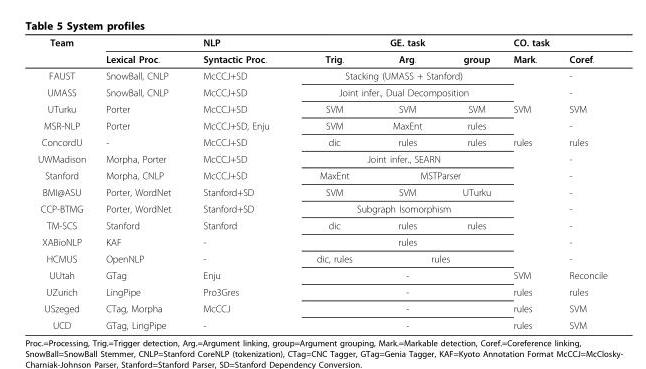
<table><thead><tr><td rowspan="2">Team</td><td rowspan="2">Lexical Proc.</td><td rowspan="2">NLP Syntactic Proc.</td><td rowspan="2">Trig.</td><td rowspan="2">GE. task Arg.</td><td rowspan="2">group</td><td colspan="2">CO. task</td></tr><tr><td>Mark.</td><td>Coref.</td></tr></thead><tbody><tr><td>FAUST</td><td>SnowBall, CNLP</td><td>McCCJ+SD</td><td colspan="3">Stacking (UMASS + Stanford)</td><td></td><td>-</td></tr><tr><td>UMASS</td><td>SnowBall, CNLP</td><td>McCCJ+SD</td><td colspan="3">Joint infer., Dual Decomposition</td><td></td><td>-</td></tr><tr><td>UTurku</td><td>Porter</td><td>McCCJ+SD</td><td>SVM</td><td>SVM</td><td>SVM</td><td>SVM</td><td>SVM</td></tr><tr><td>MSR-NLP</td><td>Porter</td><td>McCCJ+SD, Enju</td><td>SVM</td><td>MaxEnt</td><td>rules</td><td></td><td>-</td></tr><tr><td>ConcordU</td><td>-</td><td>McCCJ+SD</td><td>dic</td><td>rules</td><td>rules</td><td>rules</td><td>rules</td></tr><tr><td>UWMadison</td><td>Morpha, Porter</td><td>McCCJ+SD</td><td colspan="3">Joint infer., SEARN</td><td></td><td>-</td></tr><tr><td>Stanford</td><td>Morpha, CNLP</td><td>McCCJ+SD</td><td>MaxEnt</td><td colspan="2">MSTParser</td><td></td><td>-</td></tr><tr><td>BMI@ASU</td><td>Porter, WordNet</td><td>Stanford+SD</td><td>SVM</td><td>SVM</td><td>UTurku</td><td></td><td>-</td></tr><tr><td>CCP-BTMG</td><td>Porter, WordNet</td><td>Stanford+SD</td><td colspan="3">Subgraph Isomorphism</td><td></td><td>-</td></tr><tr><td>TM-SCS</td><td>Stanford</td><td>Stanford</td><td>dic</td><td>rules</td><td>rules</td><td></td><td>-</td></tr><tr><td>XABioNLP</td><td>KAF</td><td>-</td><td></td><td>rules</td><td></td><td></td><td>-</td></tr><tr><td>HCMUS</td><td>OpenNLP</td><td>-</td><td>dic, rules</td><td colspan="2">rules</td><td></td><td>-</td></tr><tr><td>UUtah</td><td>GTag</td><td>Enju</td><td></td><td>-</td><td></td><td>SVM</td><td>Reconcile</td></tr><tr><td>UZurich</td><td>LingPipe</td><td>Pro3Gres</td><td></td><td>-</td><td></td><td>rules</td><td>rules</td></tr><tr><td>USzeged</td><td>CTag, Morpha</td><td>McCCJ</td><td></td><td>-</td><td></td><td>rules</td><td>SVM</td></tr><tr><td>UCD</td><td>GTag, LingPipe</td><td>-</td><td></td><td>-</td><td></td><td>rules</td><td>SVM</td></tr></tbody></table>